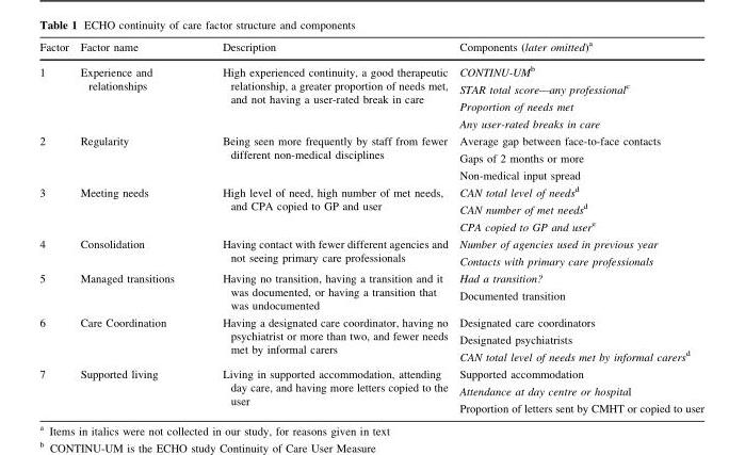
<table><thead><tr><td>Factor</td><td>Factor name</td><td>Description</td><td>Components (later omitted)<sup>a</sup></td></tr></thead><tbody><tr><td>1</td><td>Experience and relationships</td><td>High experienced continuity, a good therapeutic relationship, a greater proportion of needs met, and not having a user-rated break in care</td><td>CONTINU-UM<sup>b</sup> STAR total score—any professional<sup>c</sup> Proportion of needs met Any user-rated breaks in care</td></tr><tr><td>2</td><td>Regularity</td><td>Being seen more frequently by staff from fewer different non-medical disciplines</td><td>Average gap between face-to-face contacts Gaps of 2 months or more Non-medical input spread</td></tr><tr><td>3</td><td>Meeting needs</td><td>High level of need, high number of met needs, and CPA copied to GP and user</td><td>CAN total level of needs<sup>d</sup> CAN number of met needs<sup>d</sup> CPA copied to GP and user<sup>e</sup></td></tr><tr><td>4</td><td>Consolidation</td><td>Having contact with fewer different agencies and not seeing primary care professionals</td><td>Number of agencies used in previous year Contacts with primary care professionals</td></tr><tr><td>5</td><td>Managed transitions</td><td>Having no transition, having a transition and it was documented, or having a transition that was undocumented</td><td>Had a transition? Documented transition</td></tr><tr><td>6</td><td>Care Coordination</td><td>Having a designated care coordinator, having no psychiatrist or more than two, and fewer needs met by informal carers</td><td>Designated care coordinators Designated psychiatrists CAN total level of needs met by informal carers<sup>d</sup></td></tr><tr><td>7</td><td>Supported living</td><td>Living in supported accommodation, attending day care, and having more letters copied to the user</td><td>Supported accommodation Attendance at day centre or hospital Proportion of letters sent by CMHT or copied to user</td></tr></tbody></table>